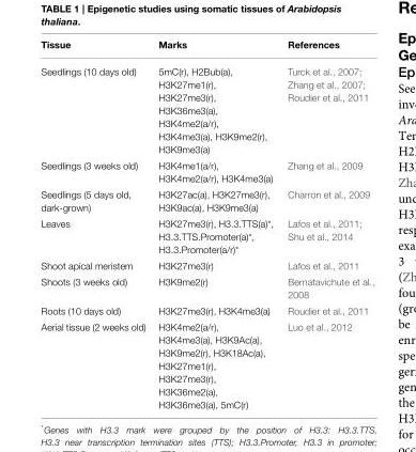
<table><thead><tr><td>Tissue</td><td>Marks</td><td>References</td></tr></thead><tbody><tr><td>Seedlings (10 days old)</td><td>5mC(r), H2Bub(a), H3K27me1(r), H3K27me3(r), H3K36me3(a), H3K4me2(a/r), H3K4me3(a), H3K9me2(r), H3K9me3(a)</td><td>Turck et al., 2007; Zhang et al., 2007; Roudier et al., 2011</td></tr><tr><td>Seedlings (3 weeks old)</td><td>H3K4me1(a/r), H3K4me2(a/r), H3K4me3(a)</td><td>Zhang et al., 2009</td></tr><tr><td>Seedlings (5 days old, dark-grown)</td><td>H3K27ac(a), H3K27me3(r), H3K9ac(a), H3K9me3(a)</td><td>Charron et al., 2009</td></tr><tr><td>Leaves</td><td>H3K27me3(r), H3.3.TTS(a)*, H3.3.TTS.Promoter(a)*, H3.3.Promoter(a/r)*</td><td>Lafos et al., 2011; Shu et al., 2014</td></tr><tr><td>Shoot apical meristem</td><td>H3K27me3(r)</td><td>Lafos et al., 2011</td></tr><tr><td>Shoots (3 weeks old)</td><td>H3K9me2(r)</td><td>Bernatavichute et al., 2008</td></tr><tr><td>Roots (10 days old)</td><td>H3K27me3(r), H3K4me3(a)</td><td>Roudier et al., 2011</td></tr><tr><td>Aerial tissue (2 weeks old)</td><td>H3K4me2(a/r), H3K4me3(a), H3K9Ac(a), H3K9me2(r), H3K18Ac(a), H3K27me1(r), H3K27me3(r), H3K36me2(a), H3K36me3(a), 5mC(r)</td><td>Luo et al., 2012</td></tr></tbody></table>